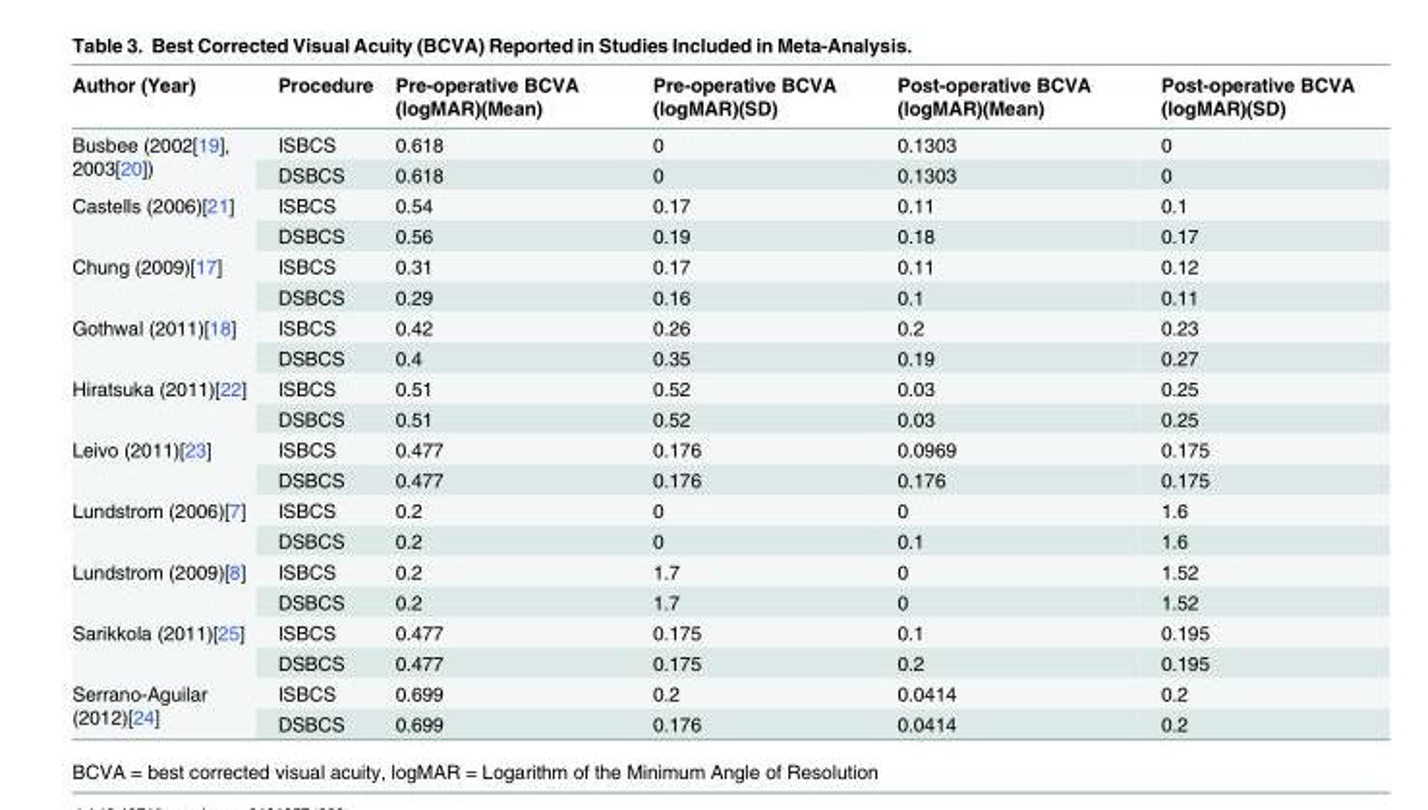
<table><thead><tr><td>Author (Year)</td><td>Procedure</td><td>Pre-operative BCVA (logMAR)(Mean)</td><td>Pre-operative BCVA (logMAR)(SD)</td><td>Post-operative BCVA (logMAR)(Mean)</td><td>Post-operative BCVA (logMAR)(SD)</td></tr></thead><tbody><tr><td rowspan="2">Busbee (2002[19], 2003[20])</td><td>ISBCS</td><td>0.618</td><td>0</td><td>0.1303</td><td>0</td></tr><tr><td>DSBCS</td><td>0.618</td><td>0</td><td>0.1303</td><td>0</td></tr><tr><td rowspan="2">Castells (2006)[21]</td><td>ISBCS</td><td>0.54</td><td>0.17</td><td>0.11</td><td>0.1</td></tr><tr><td>DSBCS</td><td>0.56</td><td>0.19</td><td>0.18</td><td>0.17</td></tr><tr><td rowspan="2">Chung (2009)[17]</td><td>ISBCS</td><td>0.31</td><td>0.17</td><td>0.11</td><td>0.12</td></tr><tr><td>DSBCS</td><td>0.29</td><td>0.16</td><td>0.1</td><td>0.11</td></tr><tr><td rowspan="2">Gothwal (2011)[18]</td><td>ISBCS</td><td>0.42</td><td>0.26</td><td>0.2</td><td>0.23</td></tr><tr><td>DSBCS</td><td>0.4</td><td>0.35</td><td>0.19</td><td>0.27</td></tr><tr><td rowspan="2">Hiratsuka (2011)[22]</td><td>ISBCS</td><td>0.51</td><td>0.52</td><td>0.03</td><td>0.25</td></tr><tr><td>DSBCS</td><td>0.51</td><td>0.52</td><td>0.03</td><td>0.25</td></tr><tr><td rowspan="2">Leivo (2011)[23]</td><td>ISBCS</td><td>0.477</td><td>0.176</td><td>0.0969</td><td>0.175</td></tr><tr><td>DSBCS</td><td>0.477</td><td>0.176</td><td>0.176</td><td>0.175</td></tr><tr><td rowspan="2">Lundstrom (2006)[7]</td><td>ISBCS</td><td>0.2</td><td>0</td><td>0</td><td>1.6</td></tr><tr><td>DSBCS</td><td>0.2</td><td>0</td><td>0.1</td><td>1.6</td></tr><tr><td rowspan="2">Lundstrom (2009)[8]</td><td>ISBCS</td><td>0.2</td><td>1.7</td><td>0</td><td>1.52</td></tr><tr><td>DSBCS</td><td>0.2</td><td>1.7</td><td>0</td><td>1.52</td></tr><tr><td rowspan="2">Sarikkola (2011)[25]</td><td>ISBCS</td><td>0.477</td><td>0.175</td><td>0.1</td><td>0.195</td></tr><tr><td>DSBCS</td><td>0.477</td><td>0.175</td><td>0.2</td><td>0.195</td></tr><tr><td rowspan="2">Serrano-Aguilar (2012)[24]</td><td>ISBCS</td><td>0.699</td><td>0.2</td><td>0.0414</td><td>0.2</td></tr><tr><td>DSBCS</td><td>0.699</td><td>0.176</td><td>0.0414</td><td>0.2</td></tr></tbody></table>